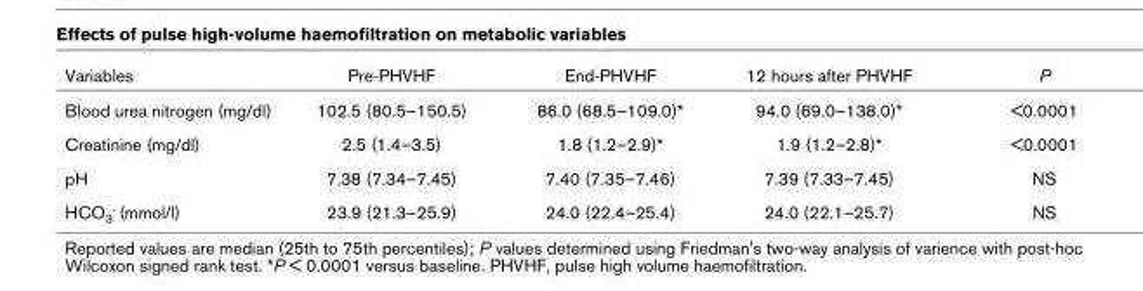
<table><thead><tr><td>Variables</td><td>Pre-PHVHF</td><td>End-PHVHF</td><td>12 hours after PHVHF</td><td>P</td></tr></thead><tbody><tr><td>Blood urea nitrogen (mg/dl)</td><td>102.5 (80.5–150.5)</td><td>86.0 (68.5–109.0)*</td><td>94.0 (69.0–138.0)*</td><td>&lt;0.0001</td></tr><tr><td>Creatinine (mg/dl)</td><td>2.5 (1.4–3.5)</td><td>1.8 (1.2–2.9)*</td><td>1.9 (1.2–2.8)*</td><td>&lt;0.0001</td></tr><tr><td>pH</td><td>7.38 (7.34–7.45)</td><td>7.40 (7.35–7.46)</td><td>7.39 (7.33–7.45)</td><td>NS</td></tr><tr><td>HCO3- (mmol/l)</td><td>23.9 (21.3–25.9)</td><td>24.0 (22.4–25.4)</td><td>24.0 (22.1–25.7)</td><td>NS</td></tr></tbody></table>